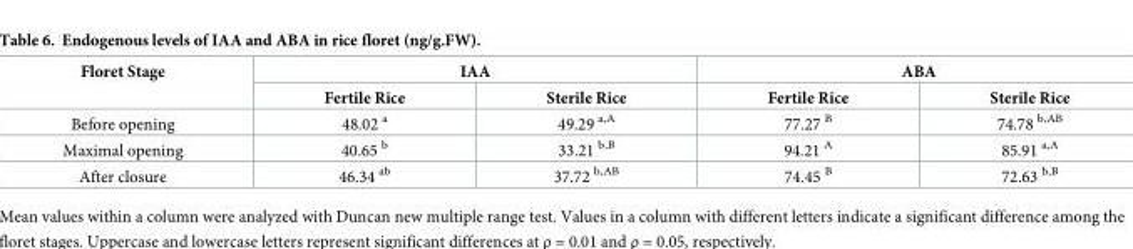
<table><thead><tr><td rowspan="2">Floret Stage</td><td colspan="2">IAA</td><td colspan="2">ABA</td></tr><tr><td>Fertile Rice</td><td>Sterile Rice</td><td>Fertile Rice</td><td>Sterile Rice</td></tr></thead><tbody><tr><td>Before opening</td><td>48.02 <sup>a</sup></td><td>49.29 <sup>a,A</sup></td><td>77.27 <sup>B</sup></td><td>74.78 <sup>b,AB</sup></td></tr><tr><td>Maximal opening</td><td>40.65 <sup>b</sup></td><td>33.21 <sup>b,B</sup></td><td>94.21 <sup>A</sup></td><td>85.91 <sup>a,A</sup></td></tr><tr><td>After closure</td><td>46.34 <sup>ab</sup></td><td>37.72 <sup>b,AB</sup></td><td>74.45 <sup>B</sup></td><td>72.63 <sup>b,B</sup></td></tr></tbody></table>